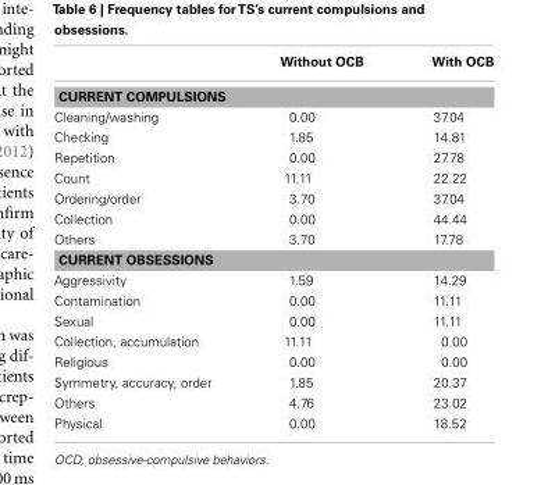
<table><thead><tr><td></td><td>Without OCB</td><td>With OCB</td></tr></thead><tbody><tr><td colspan="3">CURRENT COMPULSIONS</td></tr><tr><td>Cleaning/washing</td><td>0.00</td><td>37.04</td></tr><tr><td>Checking</td><td>1.85</td><td>14.81</td></tr><tr><td>Repetition</td><td>0.00</td><td>27.78</td></tr><tr><td>Count</td><td>11.11</td><td>22.22</td></tr><tr><td>Ordering/order</td><td>3.70</td><td>37.04</td></tr><tr><td>Collection</td><td>0.00</td><td>44.44</td></tr><tr><td>Others</td><td>3.70</td><td>17.78</td></tr><tr><td colspan="3">CURRENT OBSESSIONS</td></tr><tr><td>Aggressivity</td><td>1.59</td><td>14.29</td></tr><tr><td>Contamination</td><td>0.00</td><td>11.11</td></tr><tr><td>Sexual</td><td>0.00</td><td>11.11</td></tr><tr><td>Collection, accumulation</td><td>11.11</td><td>0.00</td></tr><tr><td>Religious</td><td>0.00</td><td>0.00</td></tr><tr><td>Symmetry, accuracy, order</td><td>1.85</td><td>20.37</td></tr><tr><td>Others</td><td>4.76</td><td>23.02</td></tr><tr><td>Physical</td><td>0.00</td><td>18.52</td></tr></tbody></table>